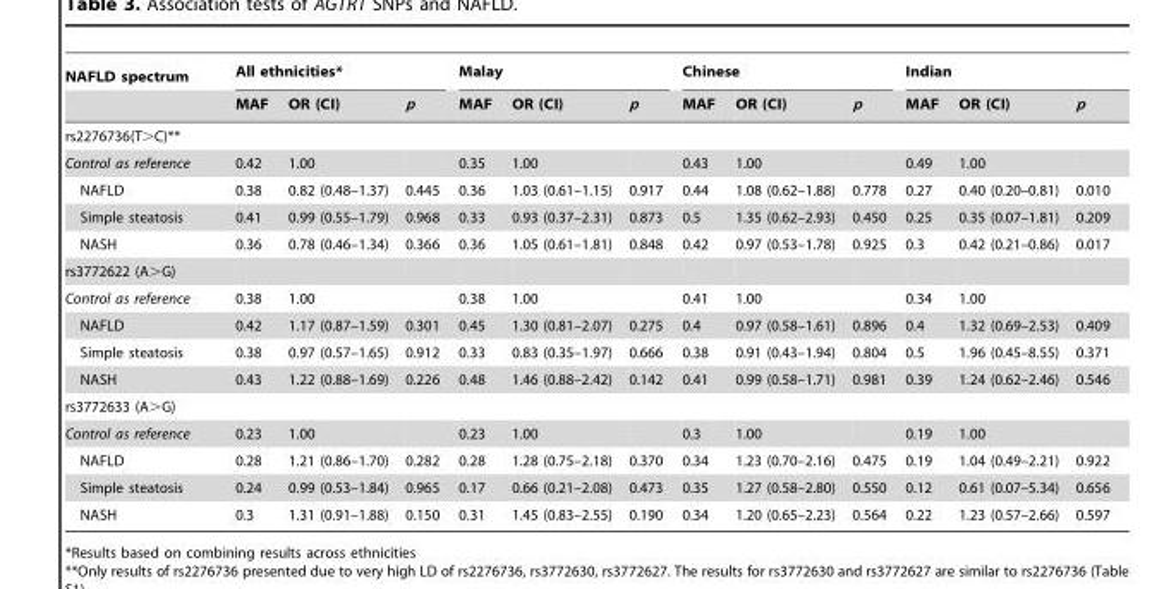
<table><thead><tr><td rowspan="2">NAFLD spectrum</td><td colspan="3">All ethnicities*</td><td colspan="3">Malay</td><td colspan="3">Chinese</td><td colspan="3">Indian</td></tr><tr><td>MAF</td><td>OR (CI)</td><td>p</td><td>MAF</td><td>OR (CI)</td><td>p</td><td>MAF</td><td>OR (CI)</td><td>p</td><td>MAF</td><td>OR (CI)</td><td>p</td></tr></thead><tbody><tr><td colspan="13">rs2276736(T&gt;C)**</td></tr><tr><td>Control as reference</td><td>0.42</td><td>1.00</td><td></td><td>0.35</td><td>1.00</td><td></td><td>0.43</td><td>1.00</td><td></td><td>0.49</td><td>1.00</td><td></td></tr><tr><td>NAFLD</td><td>0.38</td><td>0.82 (0.48–1.37)</td><td>0.445</td><td>0.36</td><td>1.03 (0.61–1.15)</td><td>0.917</td><td>0.44</td><td>1.08 (0.62–1.88)</td><td>0.778</td><td>0.27</td><td>0.40 (0.20–0.81)</td><td>0.010</td></tr><tr><td>Simple steatosis</td><td>0.41</td><td>0.99 (0.55–1.79)</td><td>0.968</td><td>0.33</td><td>0.93 (0.37–2.31)</td><td>0.873</td><td>0.5</td><td>1.35 (0.62–2.93)</td><td>0.450</td><td>0.25</td><td>0.35 (0.07–1.81)</td><td>0.209</td></tr><tr><td>NASH</td><td>0.36</td><td>0.78 (0.46–1.34)</td><td>0.366</td><td>0.36</td><td>1.05 (0.61–1.81)</td><td>0.848</td><td>0.42</td><td>0.97 (0.53–1.78)</td><td>0.925</td><td>0.3</td><td>0.42 (0.21–0.86)</td><td>0.017</td></tr><tr><td colspan="13">rs3772622 (A&gt;G)</td></tr><tr><td>Control as reference</td><td>0.38</td><td>1.00</td><td></td><td>0.38</td><td>1.00</td><td></td><td>0.41</td><td>1.00</td><td></td><td>0.34</td><td>1.00</td><td></td></tr><tr><td>NAFLD</td><td>0.42</td><td>1.17 (0.87–1.59)</td><td>0.301</td><td>0.45</td><td>1.30 (0.81–2.07)</td><td>0.275</td><td>0.4</td><td>0.97 (0.58–1.61)</td><td>0.896</td><td>0.4</td><td>1.32 (0.69–2.53)</td><td>0.409</td></tr><tr><td>Simple steatosis</td><td>0.38</td><td>0.97 (0.57–1.65)</td><td>0.912</td><td>0.33</td><td>0.83 (0.35–1.97)</td><td>0.666</td><td>0.38</td><td>0.91 (0.43–1.94)</td><td>0.804</td><td>0.5</td><td>1.96 (0.45–8.55)</td><td>0.371</td></tr><tr><td>NASH</td><td>0.43</td><td>1.22 (0.88–1.69)</td><td>0.226</td><td>0.48</td><td>1.46 (0.88–2.42)</td><td>0.142</td><td>0.41</td><td>0.99 (0.58–1.71)</td><td>0.981</td><td>0.39</td><td>1.24 (0.62–2.46)</td><td>0.546</td></tr><tr><td colspan="13">rs3772633 (A&gt;G)</td></tr><tr><td>Control as reference</td><td>0.23</td><td>1.00</td><td></td><td>0.23</td><td>1.00</td><td></td><td>0.3</td><td>1.00</td><td></td><td>0.19</td><td>1.00</td><td></td></tr><tr><td>NAFLD</td><td>0.28</td><td>1.21 (0.86–1.70)</td><td>0.282</td><td>0.28</td><td>1.28 (0.75–2.18)</td><td>0.370</td><td>0.34</td><td>1.23 (0.70–2.16)</td><td>0.475</td><td>0.19</td><td>1.04 (0.49–2.21)</td><td>0.922</td></tr><tr><td>Simple steatosis</td><td>0.24</td><td>0.99 (0.53–1.84)</td><td>0.965</td><td>0.17</td><td>0.66 (0.21–2.08)</td><td>0.473</td><td>0.35</td><td>1.27 (0.58–2.80)</td><td>0.550</td><td>0.12</td><td>0.61 (0.07–5.34)</td><td>0.656</td></tr><tr><td>NASH</td><td>0.3</td><td>1.31 (0.91–1.88)</td><td>0.150</td><td>0.31</td><td>1.45 (0.83–2.55)</td><td>0.190</td><td>0.34</td><td>1.20 (0.65–2.23)</td><td>0.564</td><td>0.22</td><td>1.23 (0.57–2.66)</td><td>0.597</td></tr></tbody></table>